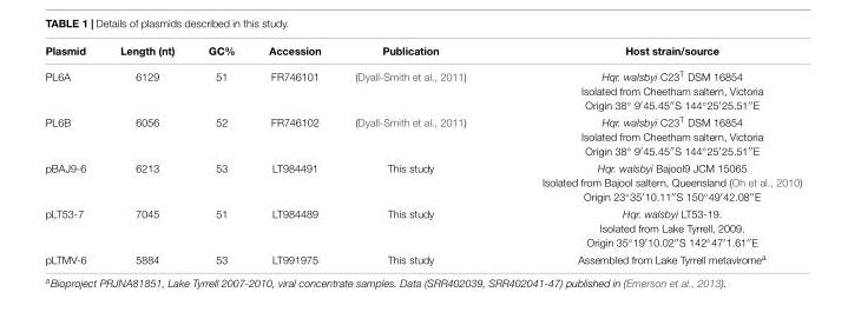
<table><thead><tr><td>Plasmid</td><td>Length (nt)</td><td>GC%</td><td>Accession</td><td>Publication</td><td>Host strain/source</td></tr></thead><tbody><tr><td>PL6A</td><td>6129</td><td>51</td><td>FR746101</td><td>(Dyall-Smith et al., 2011)</td><td>Hqr. walsbyi C23T DSM 16854 Isolated from Cheetham saltern, Victoria Origin 38◦ 9′45.45′′S 144◦25′25.51′′E</td></tr><tr><td>PL6B</td><td>6056</td><td>52</td><td>FR746102</td><td>(Dyall-Smith et al., 2011)</td><td>Hqr. walsbyi C23T DSM 16854 Isolated from Cheetham saltern, Victoria Origin 38◦ 9′45.45′′S 144◦25′25.51′′E</td></tr><tr><td>pBAJ9-6</td><td>6213</td><td>53</td><td>LT984491</td><td>This study</td><td>Hqr. walsbyi Bajool9 JCM 15065 Isolated from Bajool saltern, Queensland (Oh et al., 2010) Origin 23◦35′10.11′′S 150◦49′42.08′′E</td></tr><tr><td>pLT53-7</td><td>7045</td><td>51</td><td>LT984489</td><td>This study</td><td>Hqr. walsbyi LT53-19. Isolated from Lake Tyrrell, 2009. Origin 35◦19′10.02′′S 142◦47′1.61′′E</td></tr><tr><td>pLTMV-6</td><td>5884</td><td>53</td><td>LT991975</td><td>This study</td><td>Assembled from Lake Tyrrell metavirome<sup>a</sup></td></tr></tbody></table>